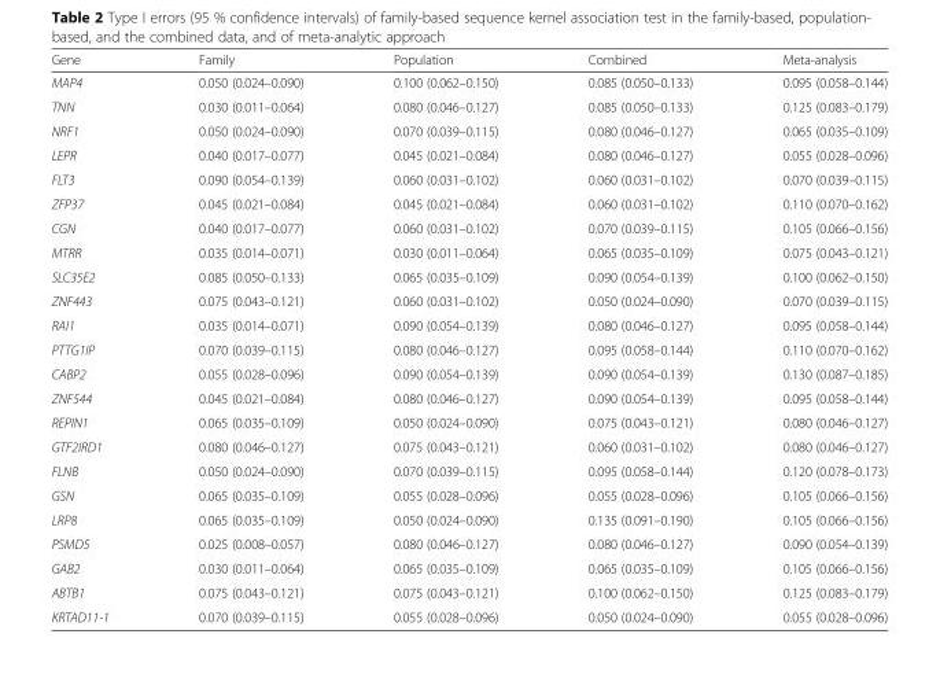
<table><thead><tr><td>Gene</td><td>Family</td><td>Population</td><td>Combined</td><td>Meta-analysis</td></tr></thead><tbody><tr><td>MAP4</td><td>0.050 (0.024–0.090)</td><td>0.100 (0.062–0.150)</td><td>0.085 (0.050–0.133)</td><td>0.095 (0.058–0.144)</td></tr><tr><td>TNN</td><td>0.030 (0.011–0.064)</td><td>0.080 (0.046–0.127)</td><td>0.085 (0.050–0.133)</td><td>0.125 (0.083–0.179)</td></tr><tr><td>NRF1</td><td>0.050 (0.024–0.090)</td><td>0.070 (0.039–0.115)</td><td>0.080 (0.046–0.127)</td><td>0.065 (0.035–0.109)</td></tr><tr><td>LEPR</td><td>0.040 (0.017–0.077)</td><td>0.045 (0.021–0.084)</td><td>0.080 (0.046–0.127)</td><td>0.055 (0.028–0.096)</td></tr><tr><td>FLT3</td><td>0.090 (0.054–0.139)</td><td>0.060 (0.031–0.102)</td><td>0.060 (0.031–0.102)</td><td>0.070 (0.039–0.115)</td></tr><tr><td>ZFP37</td><td>0.045 (0.021–0.084)</td><td>0.045 (0.021–0.084)</td><td>0.060 (0.031–0.102)</td><td>0.110 (0.070–0.162)</td></tr><tr><td>CGN</td><td>0.040 (0.017–0.077)</td><td>0.060 (0.031–0.102)</td><td>0.070 (0.039–0.115)</td><td>0.105 (0.066–0.156)</td></tr><tr><td>MTRR</td><td>0.035 (0.014–0.071)</td><td>0.030 (0.011–0.064)</td><td>0.065 (0.035–0.109)</td><td>0.075 (0.043–0.121)</td></tr><tr><td>SLC35E2</td><td>0.085 (0.050–0.133)</td><td>0.065 (0.035–0.109)</td><td>0.090 (0.054–0.139)</td><td>0.100 (0.062–0.150)</td></tr><tr><td>ZNF443</td><td>0.075 (0.043–0.121)</td><td>0.060 (0.031–0.102)</td><td>0.050 (0.024–0.090)</td><td>0.070 (0.039–0.115)</td></tr><tr><td>RAI1</td><td>0.035 (0.014–0.071)</td><td>0.090 (0.054–0.139)</td><td>0.080 (0.046–0.127)</td><td>0.095 (0.058–0.144)</td></tr><tr><td>PTTG1IP</td><td>0.070 (0.039–0.115)</td><td>0.080 (0.046–0.127)</td><td>0.095 (0.058–0.144)</td><td>0.110 (0.070–0.162)</td></tr><tr><td>CABP2</td><td>0.055 (0.028–0.096)</td><td>0.090 (0.054–0.139)</td><td>0.090 (0.054–0.139)</td><td>0.130 (0.087–0.185)</td></tr><tr><td>ZNF544</td><td>0.045 (0.021–0.084)</td><td>0.080 (0.046–0.127)</td><td>0.090 (0.054–0.139)</td><td>0.095 (0.058–0.144)</td></tr><tr><td>REPIN1</td><td>0.065 (0.035–0.109)</td><td>0.050 (0.024–0.090)</td><td>0.075 (0.043–0.121)</td><td>0.080 (0.046–0.127)</td></tr><tr><td>GTF2IRD1</td><td>0.080 (0.046–0.127)</td><td>0.075 (0.043–0.121)</td><td>0.060 (0.031–0.102)</td><td>0.080 (0.046–0.127)</td></tr><tr><td>FLNB</td><td>0.050 (0.024–0.090)</td><td>0.070 (0.039–0.115)</td><td>0.095 (0.058–0.144)</td><td>0.120 (0.078–0.173)</td></tr><tr><td>GSN</td><td>0.065 (0.035–0.109)</td><td>0.055 (0.028–0.096)</td><td>0.055 (0.028–0.096)</td><td>0.105 (0.066–0.156)</td></tr><tr><td>LRP8</td><td>0.065 (0.035–0.109)</td><td>0.050 (0.024–0.090)</td><td>0.135 (0.091–0.190)</td><td>0.105 (0.066–0.156)</td></tr><tr><td>PSMD5</td><td>0.025 (0.008–0.057)</td><td>0.080 (0.046–0.127)</td><td>0.080 (0.046–0.127)</td><td>0.090 (0.054–0.139)</td></tr><tr><td>GAB2</td><td>0.030 (0.011–0.064)</td><td>0.065 (0.035–0.109)</td><td>0.065 (0.035–0.109)</td><td>0.105 (0.066–0.156)</td></tr><tr><td>ABTB1</td><td>0.075 (0.043–0.121)</td><td>0.075 (0.043–0.121)</td><td>0.100 (0.062–0.150)</td><td>0.125 (0.083–0.179)</td></tr><tr><td>KRTAD11-1</td><td>0.070 (0.039–0.115)</td><td>0.055 (0.028–0.096)</td><td>0.050 (0.024–0.090)</td><td>0.055 (0.028–0.096)</td></tr></tbody></table>